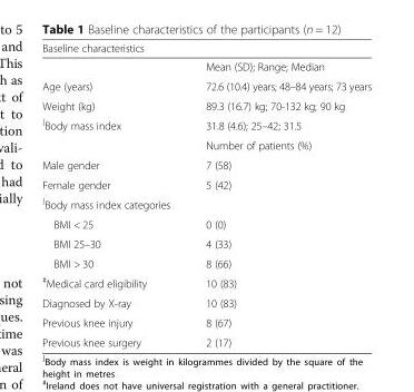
<table><thead><tr><td>Baseline characteristics</td><td></td></tr></thead><tbody><tr><td></td><td>Mean (SD); Range; Median</td></tr><tr><td>Age (years)</td><td>72.6 (10.4) years; 48–84 years; 73 years</td></tr><tr><td>Weight (kg)</td><td>89.3 (16.7) kg; 70-132 kg; 90 kg</td></tr><tr><td rowspan="2"><sup>∫</sup>Body mass index</td><td>31.8 (4.6); 25–42; 31.5</td></tr><tr><td>Number of patients (%)</td></tr><tr><td>Male gender</td><td>7 (58)</td></tr><tr><td>Female gender</td><td>5 (42)</td></tr><tr><td colspan="2"><sup>∫</sup>Body mass index categories</td></tr><tr><td>BMI &lt; 25</td><td>0 (0)</td></tr><tr><td>BMI 25–30</td><td>4 (33)</td></tr><tr><td>BMI &gt; 30</td><td>8 (66)</td></tr><tr><td><sup>#</sup>Medical card eligibility</td><td>10 (83)</td></tr><tr><td>Diagnosed by X-ray</td><td>10 (83)</td></tr><tr><td>Previous knee injury</td><td>8 (67)</td></tr><tr><td>Previous knee surgery</td><td>2 (17)</td></tr></tbody></table>